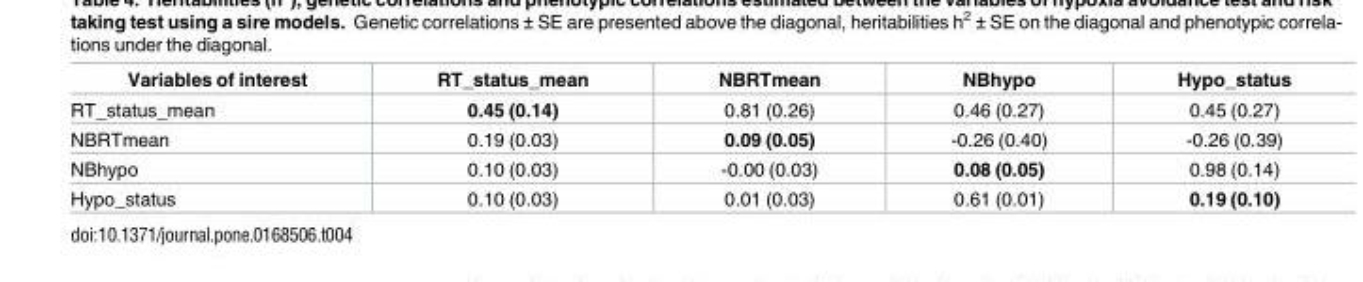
<table><thead><tr><td>Variables of interest</td><td>RT_status_mean</td><td>NBRTmean</td><td>NBhypo</td><td>Hypo_status</td></tr></thead><tbody><tr><td>RT_status_mean</td><td>0.45 (0.14)</td><td>0.81 (0.26)</td><td>0.46 (0.27)</td><td>0.45 (0.27)</td></tr><tr><td>NBRTmean</td><td>0.19 (0.03)</td><td>0.09 (0.05)</td><td>-0.26 (0.40)</td><td>-0.26 (0.39)</td></tr><tr><td>NBhypo</td><td>0.10 (0.03)</td><td>-0.00 (0.03)</td><td>0.08 (0.05)</td><td>0.98 (0.14)</td></tr><tr><td>Hypo_status</td><td>0.10 (0.03)</td><td>0.01 (0.03)</td><td>0.61 (0.01)</td><td>0.19 (0.10)</td></tr></tbody></table>